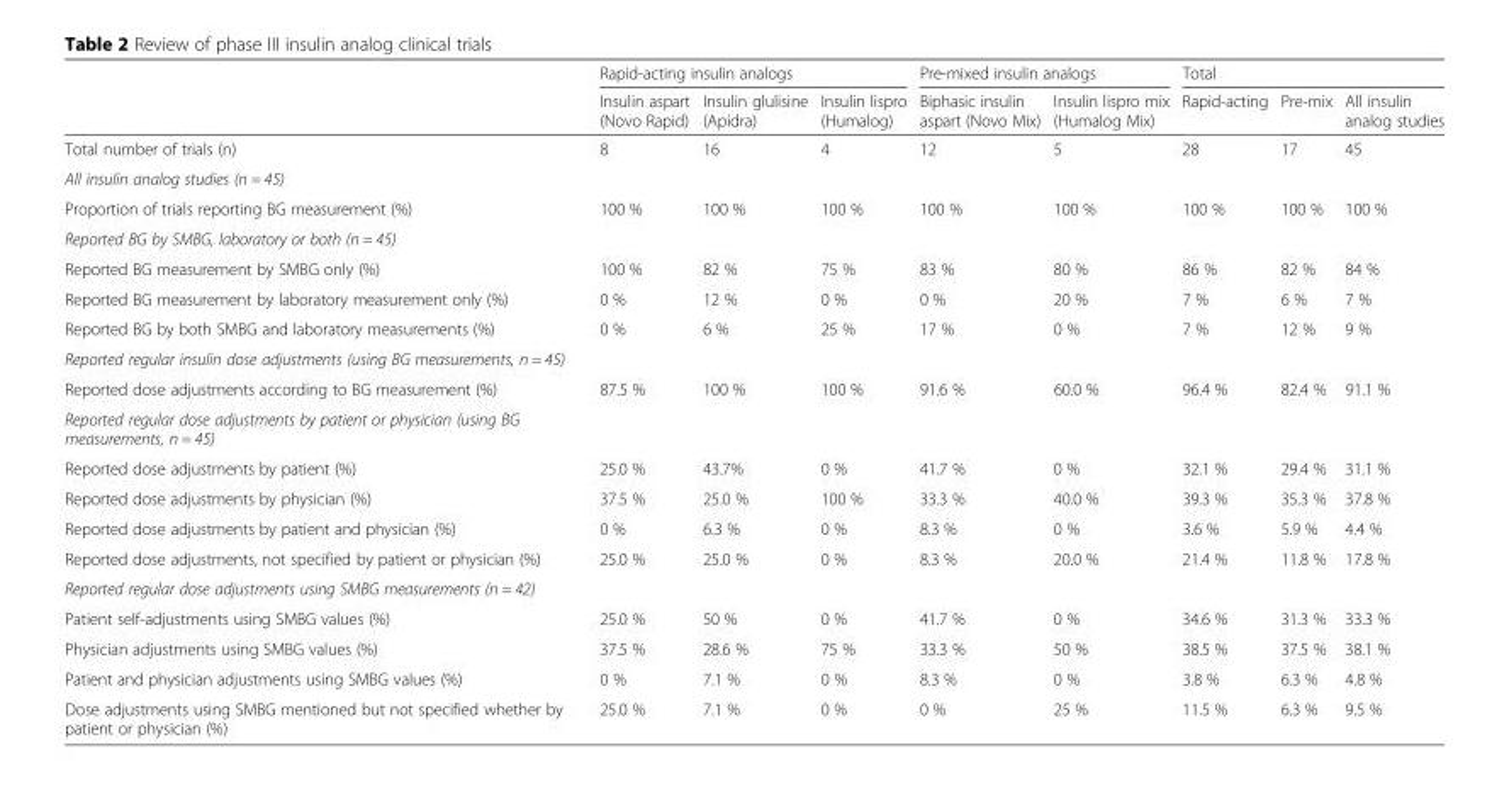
<table><thead><tr><td rowspan="2"></td><td colspan="3">Rapid-acting insulin analogs</td><td colspan="2">Pre-mixed insulin analogs</td><td colspan="3">Total</td></tr><tr><td>Insulin aspart (Novo Rapid)</td><td>Insulin glulisine (Apidra)</td><td>Insulin lispro (Humalog)</td><td>Biphasic insulin aspart (Novo Mix)</td><td>Insulin lispro mix (Humalog Mix)</td><td>Rapid-acting</td><td>Pre-mix</td><td>All insulin analog studies</td></tr></thead><tbody><tr><td>Total number of trials (n)</td><td>8</td><td>16</td><td>4</td><td>12</td><td>5</td><td>28</td><td>17</td><td>45</td></tr><tr><td colspan="9">All insulin analog studies (n = 45)</td></tr><tr><td>Proportion of trials reporting BG measurement (%)</td><td>100 %</td><td>100 %</td><td>100 %</td><td>100 %</td><td>100 %</td><td>100 %</td><td>100 %</td><td>100 %</td></tr><tr><td colspan="9">Reported BG by SMBG, laboratory or both (n = 45)</td></tr><tr><td>Reported BG measurement by SMBG only (%)</td><td>100 %</td><td>82 %</td><td>75 %</td><td>83 %</td><td>80 %</td><td>86 %</td><td>82 %</td><td>84 %</td></tr><tr><td>Reported BG measurement by laboratory measurement only (%)</td><td>0 %</td><td>12 %</td><td>0 %</td><td>0 %</td><td>20 %</td><td>7 %</td><td>6 %</td><td>7 %</td></tr><tr><td>Reported BG by both SMBG and laboratory measurements (%)</td><td>0 %</td><td>6 %</td><td>25 %</td><td>17 %</td><td>0 %</td><td>7 %</td><td>12 %</td><td>9 %</td></tr><tr><td colspan="9">Reported regular insulin dose adjustments (using BG measurements, n = 45)</td></tr><tr><td>Reported dose adjustments according to BG measurement (%)</td><td>87.5 %</td><td>100 %</td><td>100 %</td><td>91.6 %</td><td>60.0 %</td><td>96.4 %</td><td>82.4 %</td><td>91.1 %</td></tr><tr><td colspan="9">Reported regular dose adjustments by patient or physician (using BG measurements, n = 45)</td></tr><tr><td>Reported dose adjustments by patient (%)</td><td>25.0 %</td><td>43.7%</td><td>0 %</td><td>41.7 %</td><td>0 %</td><td>32.1 %</td><td>29.4 %</td><td>31.1 %</td></tr><tr><td>Reported dose adjustments by physician (%)</td><td>37.5 %</td><td>25.0 %</td><td>100 %</td><td>33.3 %</td><td>40.0 %</td><td>39.3 %</td><td>35.3 %</td><td>37.8 %</td></tr><tr><td>Reported dose adjustments by patient and physician (%)</td><td>0 %</td><td>6.3 %</td><td>0 %</td><td>8.3 %</td><td>0 %</td><td>3.6 %</td><td>5.9 %</td><td>4.4 %</td></tr><tr><td>Reported dose adjustments, not specified by patient or physician (%)</td><td>25.0 %</td><td>25.0 %</td><td>0 %</td><td>8.3 %</td><td>20.0 %</td><td>21.4 %</td><td>11.8 %</td><td>17.8 %</td></tr><tr><td colspan="9">Reported regular dose adjustments using SMBG measurements (n = 42)</td></tr><tr><td>Patient self-adjustments using SMBG values (%)</td><td>25.0 %</td><td>50 %</td><td>0 %</td><td>41.7 %</td><td>0 %</td><td>34.6 %</td><td>31.3 %</td><td>33.3 %</td></tr><tr><td>Physician adjustments using SMBG values (%)</td><td>37.5 %</td><td>28.6 %</td><td>75 %</td><td>33.3 %</td><td>50 %</td><td>38.5 %</td><td>37.5 %</td><td>38.1 %</td></tr><tr><td>Patient and physician adjustments using SMBG values (%)</td><td>0 %</td><td>7.1 %</td><td>0 %</td><td>8.3 %</td><td>0 %</td><td>3.8 %</td><td>6.3 %</td><td>4.8 %</td></tr><tr><td>Dose adjustments using SMBG mentioned but not specified whether by patient or physician (%)</td><td>25.0 %</td><td>7.1 %</td><td>0 %</td><td>0 %</td><td>25 %</td><td>11.5 %</td><td>6.3 %</td><td>9.5 %</td></tr></tbody></table>